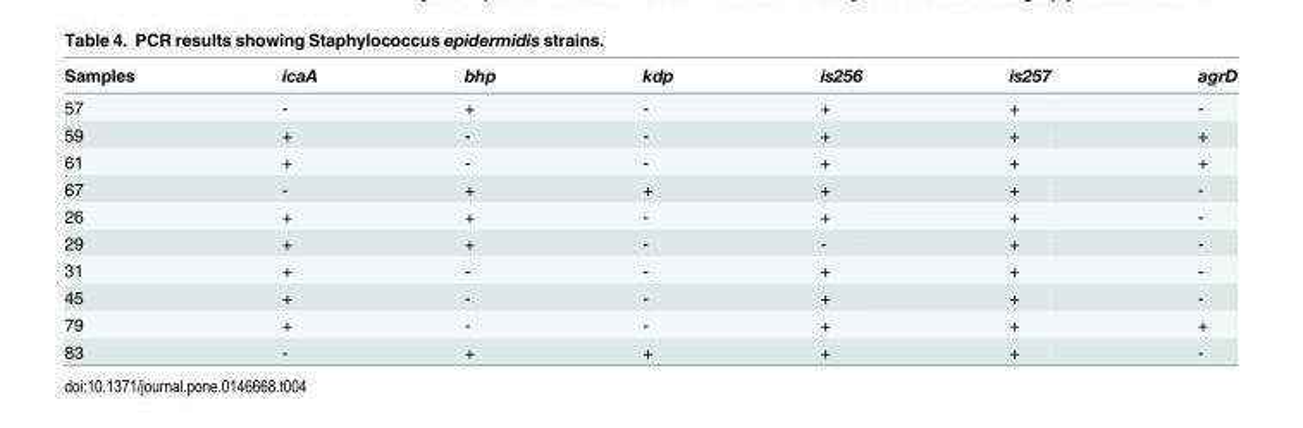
<table><thead><tr><td>Samples</td><td>icaA</td><td>bhp</td><td>kdp</td><td>is256</td><td>is257</td><td>agrD</td></tr></thead><tbody><tr><td>57</td><td>-</td><td>+</td><td>-</td><td>+</td><td>+</td><td>-</td></tr><tr><td>59</td><td>+</td><td>-</td><td>-</td><td>+</td><td>+</td><td>+</td></tr><tr><td>61</td><td>+</td><td>-</td><td>-</td><td>+</td><td>+</td><td>+</td></tr><tr><td>67</td><td>-</td><td>+</td><td>+</td><td>+</td><td>+</td><td>-</td></tr><tr><td>26</td><td>+</td><td>+</td><td>-</td><td>+</td><td>+</td><td>-</td></tr><tr><td>29</td><td>+</td><td>+</td><td>-</td><td>-</td><td>+</td><td>-</td></tr><tr><td>31</td><td>+</td><td>-</td><td>-</td><td>+</td><td>+</td><td>-</td></tr><tr><td>45</td><td>+</td><td>-</td><td>-</td><td>+</td><td>+</td><td>-</td></tr><tr><td>79</td><td>+</td><td>-</td><td>-</td><td>+</td><td>+</td><td>+</td></tr><tr><td>83</td><td>-</td><td>+</td><td>+</td><td>+</td><td>+</td><td>-</td></tr></tbody></table>